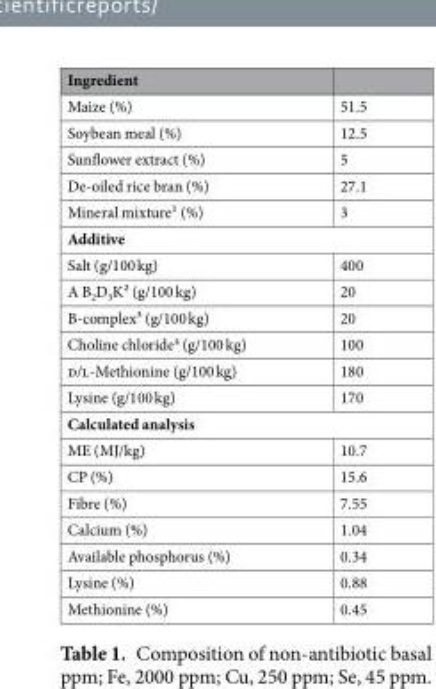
<table><thead><tr><td>Ingredient</td><td></td></tr></thead><tbody><tr><td>Maize (%)</td><td>51.5</td></tr><tr><td>Soybean meal (%)</td><td>12.5</td></tr><tr><td>Sunflower extract (%)</td><td>5</td></tr><tr><td>De-oiled rice bran (%)</td><td>27.1</td></tr><tr><td>Mineral mixture¹ (%)</td><td>3</td></tr><tr><td colspan="2">Additive</td></tr><tr><td>Salt (g/100 kg)</td><td>400</td></tr><tr><td>A B<sub>2</sub>D<sub>3</sub>K² (g/100 kg)</td><td>20</td></tr><tr><td>B-complex³ (g/100 kg)</td><td>20</td></tr><tr><td>Choline chloride<sup>4</sup> (g/100 kg)</td><td>100</td></tr><tr><td>d/l-Methionine (g/100 kg)</td><td>180</td></tr><tr><td>Lysine (g/100 kg)</td><td>170</td></tr><tr><td colspan="2">Calculated analysis</td></tr><tr><td>ME (MJ/kg)</td><td>10.7</td></tr><tr><td>CP (%)</td><td>15.6</td></tr><tr><td>Fibre (%)</td><td>7.55</td></tr><tr><td>Calcium (%)</td><td>1.04</td></tr><tr><td>Available phosphorus (%)</td><td>0.34</td></tr><tr><td>Lysine (%)</td><td>0.88</td></tr><tr><td>Methionine (%)</td><td>0.45</td></tr></tbody></table>